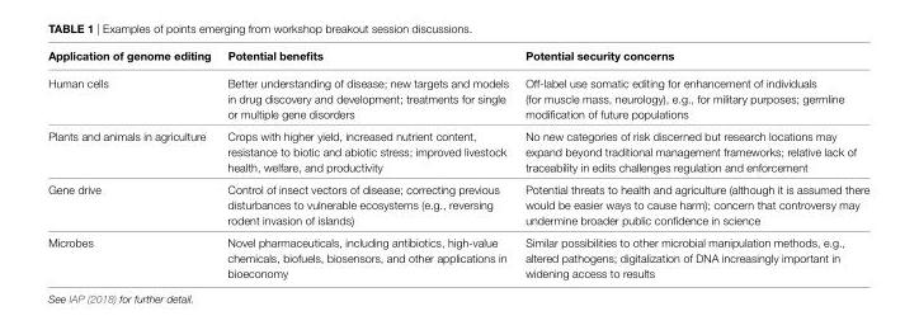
<table><thead><tr><td>Application of genome editing</td><td>potential benefits</td><td>potential security concerns</td></tr></thead><tbody><tr><td>Human cells</td><td>Better understanding of disease; new targets and models in drug discovery and development; treatments for single or multiple gene disorders</td><td>Off-label use somatic editing for enhancement of individuals (for muscle mass, neurology), e.g., for military purposes; germline modification of future populations</td></tr><tr><td>Plants and animals in agriculture</td><td>Crops with higher yield, increased nutrient content, resistance to biotic and abiotic stress; improved livestock health, welfare, and productivity</td><td>No new categories of risk discerned but research locations may expand beyond traditional management frameworks; relative lack of traceability in edits challenges regulation and enforcement</td></tr><tr><td>Gene drive</td><td>Control of insect vectors of disease; correcting previous disturbances to vulnerable ecosystems (e.g., reversing rodent invasion of islands)</td><td>Potential threats to health and agriculture (although it is assumed there would be easier ways to cause harm); concern that controversy may undermine broader public confidence in science</td></tr><tr><td>Microbes</td><td>Novel pharmaceuticals, including antibiotics, high-value chemicals, biofuels, biosensors, and other applications in bioeconomy</td><td>Similar possibilities to other microbial manipulation methods, e.g., altered pathogens; digitalization of DNA increasingly important in widening access to results</td></tr></tbody></table>